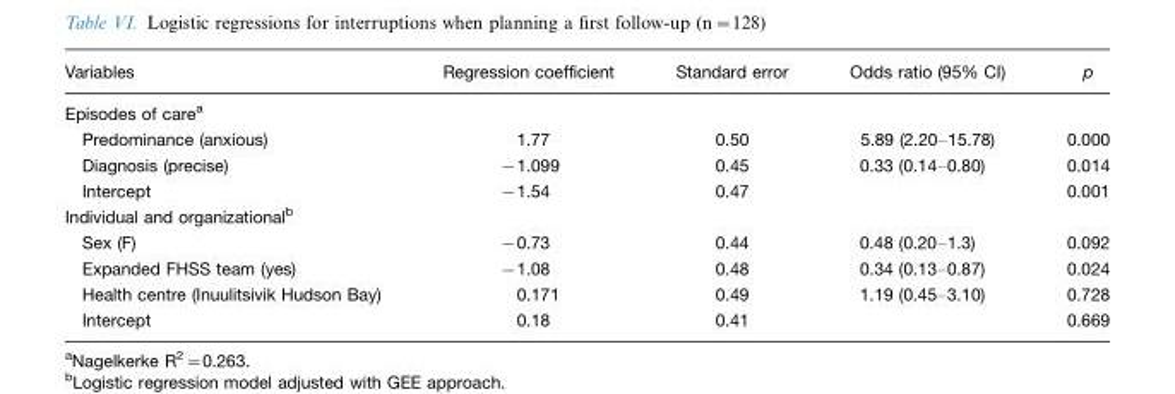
<table><thead><tr><td>Variables</td><td>Regression coefficient</td><td>Standard error</td><td>Odds ratio (95% CI)</td><td>p</td></tr></thead><tbody><tr><td colspan="5">Episodes of care<sup>a</sup></td></tr><tr><td>Predominance (anxious)</td><td>1.77</td><td>0.50</td><td>5.89 (2.20–15.78)</td><td>0.000</td></tr><tr><td>Diagnosis (precise)</td><td>−1.099</td><td>0.45</td><td>0.33 (0.14–0.80)</td><td>0.014</td></tr><tr><td>Intercept</td><td>−1.54</td><td>0.47</td><td></td><td>0.001</td></tr><tr><td colspan="5">Individual and organizational<sup>b</sup></td></tr><tr><td>Sex (F)</td><td>−0.73</td><td>0.44</td><td>0.48 (0.20–1.3)</td><td>0.092</td></tr><tr><td>Expanded FHSS team (yes)</td><td>−1.08</td><td>0.48</td><td>0.34 (0.13–0.87)</td><td>0.024</td></tr><tr><td>Health centre (Inuulitsivik Hudson Bay)</td><td>0.171</td><td>0.49</td><td>1.19 (0.45–3.10)</td><td>0.728</td></tr><tr><td>Intercept</td><td>0.18</td><td>0.41</td><td></td><td>0.669</td></tr></tbody></table>